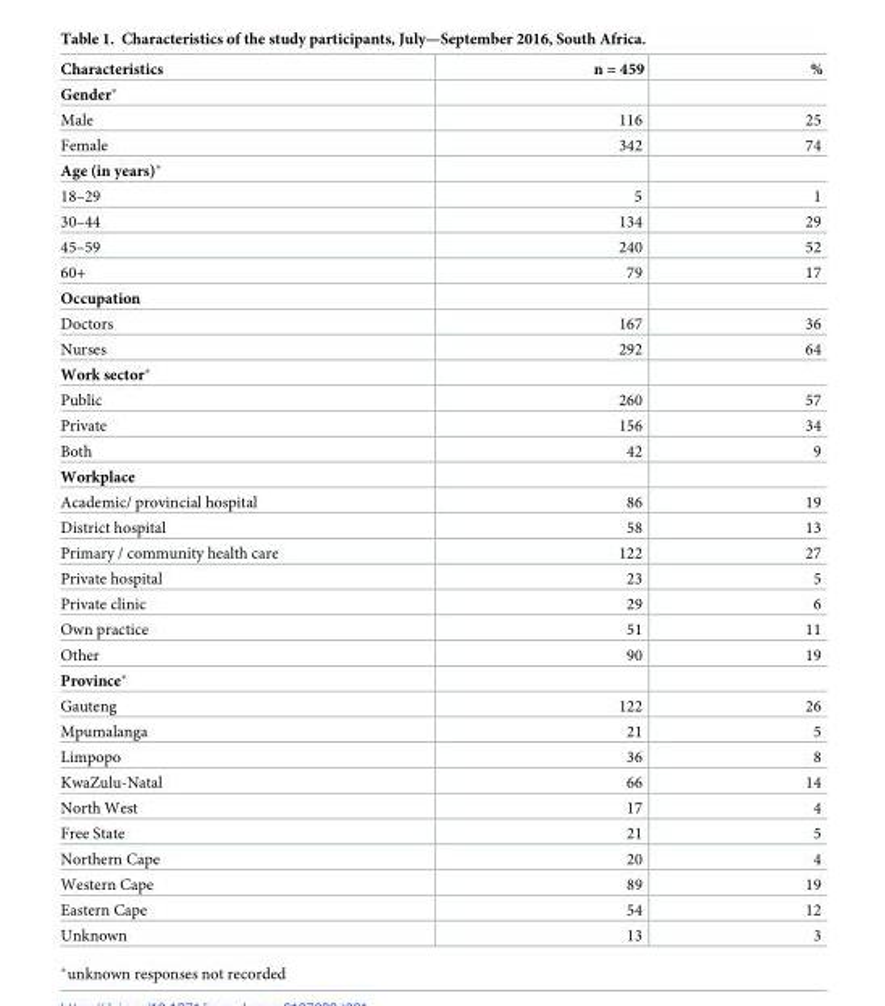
<table><thead><tr><td>Characteristics</td><td>n = 459</td><td>%</td></tr></thead><tbody><tr><td colspan="3">Gender*</td></tr><tr><td>Male</td><td>116</td><td>25</td></tr><tr><td>Female</td><td>342</td><td>74</td></tr><tr><td colspan="3">Age (in years)*</td></tr><tr><td>18–29</td><td>5</td><td>1</td></tr><tr><td>30–44</td><td>134</td><td>29</td></tr><tr><td>45–59</td><td>240</td><td>52</td></tr><tr><td>60+</td><td>79</td><td>17</td></tr><tr><td colspan="3">Occupation</td></tr><tr><td>Doctors</td><td>167</td><td>36</td></tr><tr><td>Nurses</td><td>292</td><td>64</td></tr><tr><td colspan="3">Work sector*</td></tr><tr><td>Public</td><td>260</td><td>57</td></tr><tr><td>Private</td><td>156</td><td>34</td></tr><tr><td>Both</td><td>42</td><td>9</td></tr><tr><td colspan="3">Workplace</td></tr><tr><td>Academic/ provincial hospital</td><td>86</td><td>19</td></tr><tr><td>District hospital</td><td>58</td><td>13</td></tr><tr><td>Primary / community health care</td><td>122</td><td>27</td></tr><tr><td>Private hospital</td><td>23</td><td>5</td></tr><tr><td>Private clinic</td><td>29</td><td>6</td></tr><tr><td>Own practice</td><td>51</td><td>11</td></tr><tr><td>Other</td><td>90</td><td>19</td></tr><tr><td colspan="3">Province*</td></tr><tr><td>Gauteng</td><td>122</td><td>26</td></tr><tr><td>Mpumalanga</td><td>21</td><td>5</td></tr><tr><td>Limpopo</td><td>36</td><td>8</td></tr><tr><td>KwaZulu-Natal</td><td>66</td><td>14</td></tr><tr><td>North West</td><td>17</td><td>4</td></tr><tr><td>Free State</td><td>21</td><td>5</td></tr><tr><td>Northern Cape</td><td>20</td><td>4</td></tr><tr><td>Western Cape</td><td>89</td><td>19</td></tr><tr><td>Eastern Cape</td><td>54</td><td>12</td></tr><tr><td>Unknown</td><td>13</td><td>3</td></tr></tbody></table>